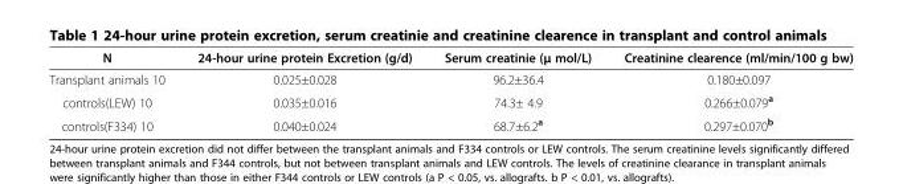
<table><thead><tr><td>N</td><td>24-hour urine protein Excretion (g/d)</td><td>Serum creatinie (μ mol/L)</td><td>Creatinine clearence (ml/min/100 g bw)</td></tr></thead><tbody><tr><td>Transplant animals 10</td><td>0.025±0.028</td><td>96.2±36.4</td><td>0.180±0.097</td></tr><tr><td>controls(LEW) 10</td><td>0.035±0.016</td><td>74.3± 4.9</td><td>0.266±0.079<sup>a</sup></td></tr><tr><td>controls(F334) 10</td><td>0.040±0.024</td><td>68.7±6.2<sup>a</sup></td><td>0.297±0.070<sup>b</sup></td></tr></tbody></table>